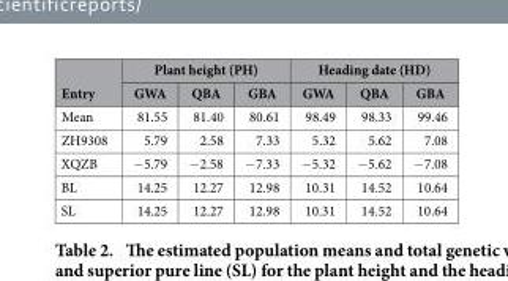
<table><thead><tr><td rowspan="2">Entry</td><td colspan="3">Plant height (PH)</td><td colspan="3">Heading date (HD)</td></tr><tr><td>GWA</td><td>QBA</td><td>GBA</td><td>GWA</td><td>QBA</td><td>GBA</td></tr></thead><tbody><tr><td>Mean</td><td>81.55</td><td>81.40</td><td>80.61</td><td>98.49</td><td>98.33</td><td>99.46</td></tr><tr><td>ZH9308</td><td>5.79</td><td>2.58</td><td>7.33</td><td>5.32</td><td>5.62</td><td>7.08</td></tr><tr><td>XQZB</td><td>− 5.79</td><td>− 2.58</td><td>− 7.33</td><td>− 5.32</td><td>− 5.62</td><td>− 7.08</td></tr><tr><td>BL</td><td>14.25</td><td>12.27</td><td>12.98</td><td>10.31</td><td>14.52</td><td>10.64</td></tr><tr><td>SL</td><td>14.25</td><td>12.27</td><td>12.98</td><td>10.31</td><td>14.52</td><td>10.64</td></tr></tbody></table>